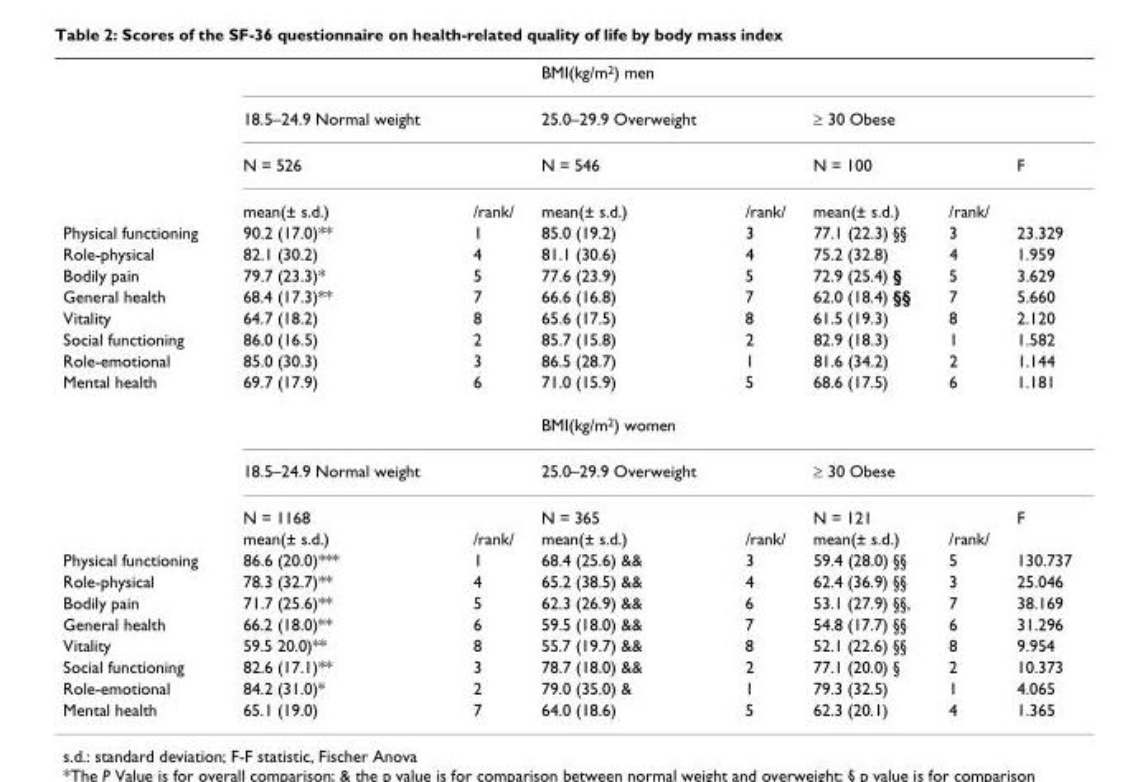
<table><thead><tr><td rowspan="2"></td><td rowspan="2">18.5–24.9 Normal weight</td><td rowspan="2"></td><td colspan="5">BMI(kg/m<sup>2</sup>) men</td></tr><tr><td>25.0–29.9 Overweight</td><td></td><td>≥ 30 Obese</td><td></td><td></td></tr></thead><tbody><tr><td></td><td>N = 526</td><td></td><td>N = 546</td><td></td><td>N = 100</td><td></td><td>F</td></tr><tr><td></td><td>mean(± s.d.)</td><td>/rank/</td><td>mean(± s.d.)</td><td>/rank/</td><td>mean(± s.d.)</td><td>/rank/</td><td></td></tr><tr><td>Physical functioning</td><td>90.2 (17.0)**</td><td>1</td><td>85.0 (19.2)</td><td>3</td><td>77.1 (22.3) §§</td><td>3</td><td>23.329</td></tr><tr><td>Role-physical</td><td>82.1 (30.2)</td><td>4</td><td>81.1 (30.6)</td><td>4</td><td>75.2 (32.8)</td><td>4</td><td>1.959</td></tr><tr><td>Bodily pain</td><td>79.7 (23.3)*</td><td>5</td><td>77.6 (23.9)</td><td>5</td><td>72.9 (25.4) §</td><td>5</td><td>3.629</td></tr><tr><td>General health</td><td>68.4 (17.3)**</td><td>7</td><td>66.6 (16.8)</td><td>7</td><td>62.0 (18.4) §§</td><td>7</td><td>5.660</td></tr><tr><td>Vitality</td><td>64.7 (18.2)</td><td>8</td><td>65.6 (17.5)</td><td>8</td><td>61.5 (19.3)</td><td>8</td><td>2.120</td></tr><tr><td>Social functioning</td><td>86.0 (16.5)</td><td>2</td><td>85.7 (15.8)</td><td>2</td><td>82.9 (18.3)</td><td>1</td><td>1.582</td></tr><tr><td>Role-emotional</td><td>85.0 (30.3)</td><td>3</td><td>86.5 (28.7)</td><td>1</td><td>81.6 (34.2)</td><td>2</td><td>1.144</td></tr><tr><td rowspan="5">Mental health</td><td>69.7 (17.9)</td><td>6</td><td>71.0 (15.9)</td><td>5</td><td>68.6 (17.5)</td><td>6</td><td>1.181</td></tr><tr><td></td><td></td><td colspan="5">BMI(kg/m<sup>2</sup>) women</td></tr><tr><td>18.5–24.9 Normal weight</td><td></td><td>25.0–29.9 Overweight</td><td></td><td>≥ 30 Obese</td><td></td><td></td></tr><tr><td>N = 1168</td><td></td><td>N = 365</td><td></td><td>N = 121</td><td></td><td>F</td></tr><tr><td>mean(± s.d.)</td><td>/rank/</td><td>mean(± s.d.)</td><td>/rank/</td><td>mean(± s.d.)</td><td>/rank/</td><td></td></tr><tr><td>Physical functioning</td><td>86.6 (20.0)***</td><td>1</td><td>68.4 (25.6) &amp;&amp;</td><td>3</td><td>59.4 (28.0) §§</td><td>5</td><td>130.737</td></tr><tr><td>Role-physical</td><td>78.3 (32.7)**</td><td>4</td><td>65.2 (38.5) &amp;&amp;</td><td>4</td><td>62.4 (36.9) §§</td><td>3</td><td>25.046</td></tr><tr><td>Bodily pain</td><td>71.7 (25.6)**</td><td>5</td><td>62.3 (26.9) &amp;&amp;</td><td>6</td><td>53.1 (27.9) §§,</td><td>7</td><td>38.169</td></tr><tr><td>General health</td><td>66.2 (18.0)**</td><td>6</td><td>59.5 (18.0) &amp;&amp;</td><td>7</td><td>54.8 (17.7) §§</td><td>6</td><td>31.296</td></tr><tr><td>Vitality</td><td>59.5 20.0)**</td><td>8</td><td>55.7 (19.7) &amp;&amp;</td><td>8</td><td>52.1 (22.6) §§</td><td>8</td><td>9.954</td></tr><tr><td>Social functioning</td><td>82.6 (17.1)**</td><td>3</td><td>78.7 (18.0) &amp;&amp;</td><td>2</td><td>77.1 (20.0) §</td><td>2</td><td>10.373</td></tr><tr><td>Role-emotional</td><td>84.2 (31.0)*</td><td>2</td><td>79.0 (35.0) &amp;</td><td>1</td><td>79.3 (32.5)</td><td>1</td><td>4.065</td></tr><tr><td>Mental health</td><td>65.1 (19.0)</td><td>7</td><td>64.0 (18.6)</td><td>5</td><td>62.3 (20.1)</td><td>4</td><td>1.365</td></tr></tbody></table>